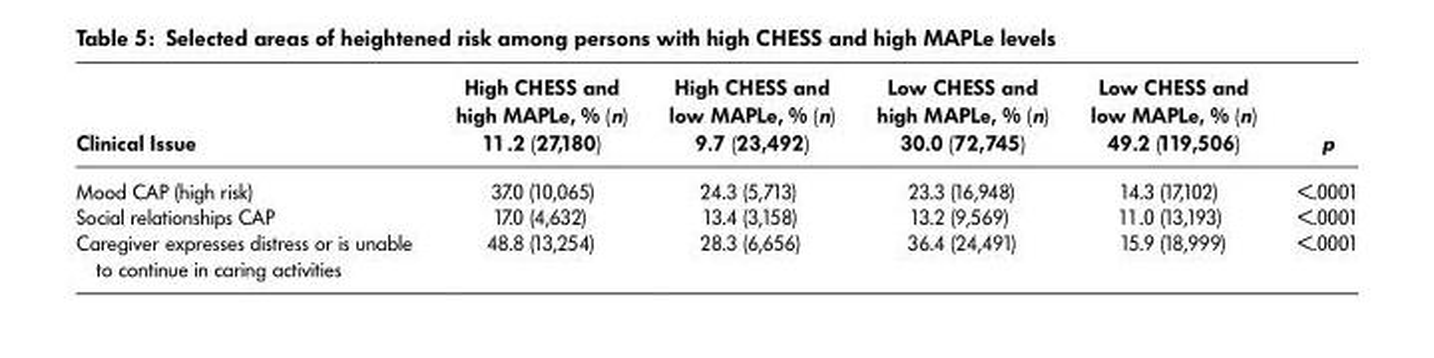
<table><thead><tr><td>Clinical Issue</td><td>High CHESS and high MAPLe, % (n) 11.2 (27,180)</td><td>High CHESS and low MAPLe, % (n) 9.7 (23,492)</td><td>Low CHESS and high MAPLe, % (n) 30.0 (72,745)</td><td>Low CHESS and low MAPLe, % (n) 49.2 (119,506)</td><td>p</td></tr></thead><tbody><tr><td>Mood CAP (high risk)</td><td>37.0 (10,065)</td><td>24.3 (5,713)</td><td>23.3 (16,948)</td><td>14.3 (17,102)</td><td>&lt;.0001</td></tr><tr><td>Social relationships CAP</td><td>17.0 (4,632)</td><td>13.4 (3,158)</td><td>13.2 (9,569)</td><td>11.0 (13,193)</td><td>&lt;.0001</td></tr><tr><td>Caregiver expresses distress or is unable to continue in caring activities</td><td>48.8 (13,254)</td><td>28.3 (6,656)</td><td>36.4 (24,491)</td><td>15.9 (18,999)</td><td>&lt;.0001</td></tr></tbody></table>